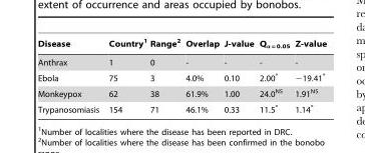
<table><thead><tr><td>Disease</td><td>Country<sup>1</sup></td><td>Range<sup>2</sup></td><td>Overlap</td><td>J-value</td><td>Q<sub>α = 0.05</sub></td><td>Z-value</td></tr></thead><tbody><tr><td>Anthrax</td><td>1</td><td>0</td><td>-</td><td>-</td><td>-</td><td>-</td></tr><tr><td>Ebola</td><td>75</td><td>3</td><td>4.0%</td><td>0.10</td><td>2.00*</td><td>−19.41*</td></tr><tr><td>Monkeypox</td><td>62</td><td>38</td><td>61.9%</td><td>1.00</td><td>24.0<sup>NS</sup></td><td>1.91<sup>NS</sup></td></tr><tr><td>Trypanosomiasis</td><td>154</td><td>71</td><td>46.1%</td><td>0.33</td><td>11.5*</td><td>1.14*</td></tr></tbody></table>